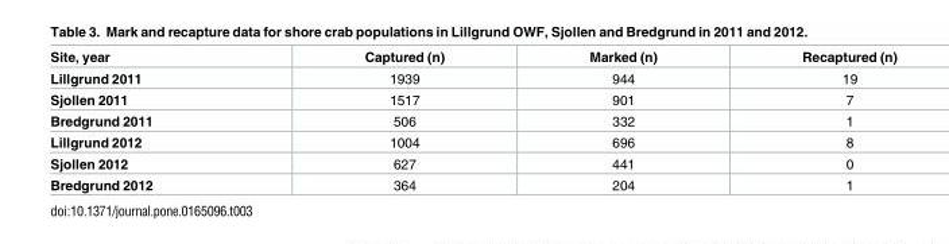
<table><thead><tr><td>Site, year</td><td>Captured (n)</td><td>Marked (n)</td><td>Recaptured (n)</td></tr></thead><tbody><tr><td>Lillgrund 2011</td><td>1939</td><td>944</td><td>19</td></tr><tr><td>Sjollen 2011</td><td>1517</td><td>901</td><td>7</td></tr><tr><td>Bredgrund 2011</td><td>506</td><td>332</td><td>1</td></tr><tr><td>Lillgrund 2012</td><td>1004</td><td>696</td><td>8</td></tr><tr><td>Sjollen 2012</td><td>627</td><td>441</td><td>0</td></tr><tr><td>Bredgrund 2012</td><td>364</td><td>204</td><td>1</td></tr></tbody></table>